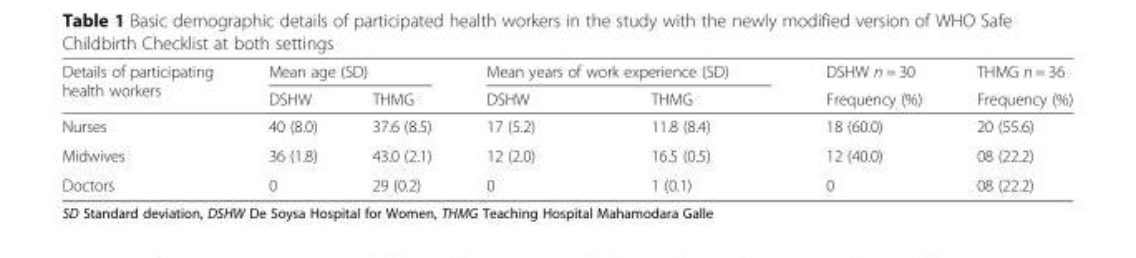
<table><thead><tr><td rowspan="2">Details of participating health workers</td><td colspan="2">Mean age (SD)</td><td colspan="2">Mean years of work experience (SD)</td><td rowspan="2">DSHW n = 30 Frequency (%)</td><td rowspan="2">THMG n = 36 Frequency (%)</td></tr><tr><td>DSHW</td><td>THMG</td><td>DSHW</td><td>THMG</td></tr></thead><tbody><tr><td>Nurses</td><td>40 (8.0)</td><td>37.6 (8.5)</td><td>17 (5.2)</td><td>11.8 (8.4)</td><td>18 (60.0)</td><td>20 (55.6)</td></tr><tr><td>Midwives</td><td>36 (1.8)</td><td>43.0 (2.1)</td><td>12 (2.0)</td><td>16.5 (0.5)</td><td>12 (40.0)</td><td>08 (22.2)</td></tr><tr><td>Doctors</td><td>0</td><td>29 (0.2)</td><td>0</td><td>1 (0.1)</td><td>0</td><td>08 (22.2)</td></tr></tbody></table>